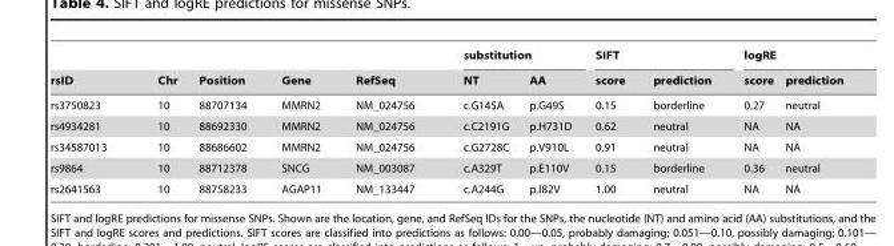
<table><thead><tr><td rowspan="2">rsID</td><td rowspan="2">Chr</td><td rowspan="2">Position</td><td rowspan="2">Gene</td><td rowspan="2">RefSeq</td><td colspan="2">substitution</td><td colspan="2">SIFT</td><td colspan="2">logRE</td></tr><tr><td>NT</td><td>AA</td><td>score</td><td>prediction</td><td>score</td><td>prediction</td></tr></thead><tbody><tr><td>rs3750823</td><td>10</td><td>88707134</td><td>MMRN2</td><td>NM_024756</td><td>c.G145A</td><td>p.G49S</td><td>0.15</td><td>borderline</td><td>0.27</td><td>neutral</td></tr><tr><td>rs4934281</td><td>10</td><td>88692330</td><td>MMRN2</td><td>NM_024756</td><td>c.C2191G</td><td>p.H731D</td><td>0.62</td><td>neutral</td><td>NA</td><td>NA</td></tr><tr><td>rs34587013</td><td>10</td><td>88686602</td><td>MMRN2</td><td>NM_024756</td><td>c.G2728C</td><td>p.V910L</td><td>0.91</td><td>neutral</td><td>NA</td><td>NA</td></tr><tr><td>rs9864</td><td>10</td><td>88712378</td><td>SNCG</td><td>NM_003087</td><td>c.A329T</td><td>p.E110V</td><td>0.15</td><td>borderline</td><td>0.36</td><td>neutral</td></tr><tr><td>rs2641563</td><td>10</td><td>88758233</td><td>AGAP11</td><td>NM_133447</td><td>c.A244G</td><td>p.I82V</td><td>1.00</td><td>neutral</td><td>NA</td><td>NA</td></tr></tbody></table>